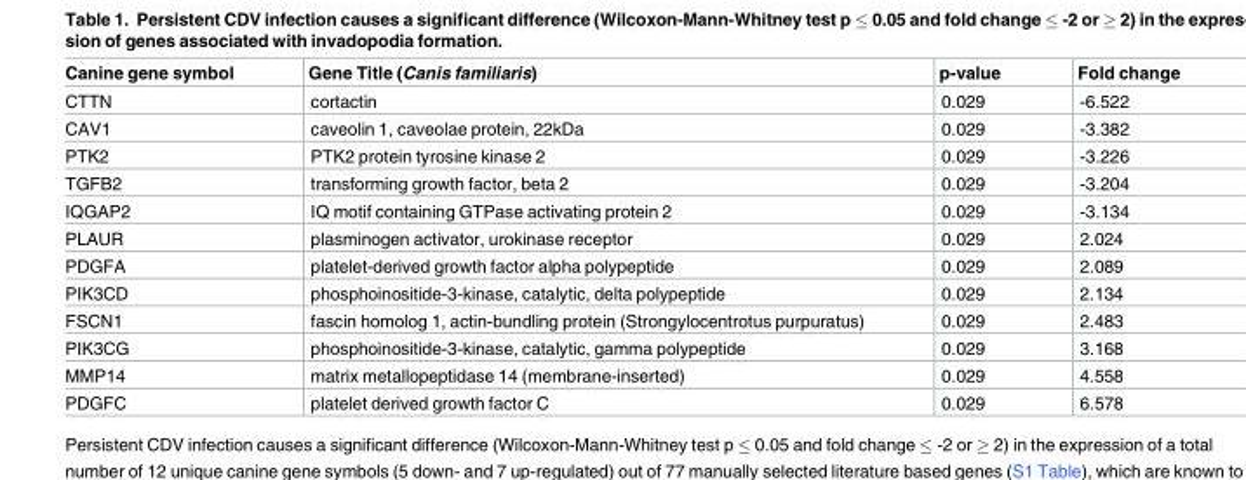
<table><thead><tr><td>Canine gene symbol</td><td>Gene Title (Canis familiaris)</td><td>p-value</td><td>Fold change</td></tr></thead><tbody><tr><td>CTTN</td><td>cortactin</td><td>0.029</td><td>-6.522</td></tr><tr><td>CAV1</td><td>caveolin 1, caveolae protein, 22kDa</td><td>0.029</td><td>-3.382</td></tr><tr><td>PTK2</td><td>PTK2 protein tyrosine kinase 2</td><td>0.029</td><td>-3.226</td></tr><tr><td>TGFB2</td><td>transforming growth factor, beta 2</td><td>0.029</td><td>-3.204</td></tr><tr><td>IQGAP2</td><td>IQ motif containing GTPase activating protein 2</td><td>0.029</td><td>-3.134</td></tr><tr><td>PLAUR</td><td>plasminogen activator, urokinase receptor</td><td>0.029</td><td>2.024</td></tr><tr><td>PDGFA</td><td>platelet-derived growth factor alpha polypeptide</td><td>0.029</td><td>2.089</td></tr><tr><td>PIK3CD</td><td>phosphoinositide-3-kinase, catalytic, delta polypeptide</td><td>0.029</td><td>2.134</td></tr><tr><td>FSCN1</td><td>fascin homolog 1, actin-bundling protein (Strongylocentrotus purpuratus)</td><td>0.029</td><td>2.483</td></tr><tr><td>PIK3CG</td><td>phosphoinositide-3-kinase, catalytic, gamma polypeptide</td><td>0.029</td><td>3.168</td></tr><tr><td>MMP14</td><td>matrix metallopeptidase 14 (membrane-inserted)</td><td>0.029</td><td>4.558</td></tr><tr><td>PDGFC</td><td>platelet derived growth factor C</td><td>0.029</td><td>6.578</td></tr></tbody></table>